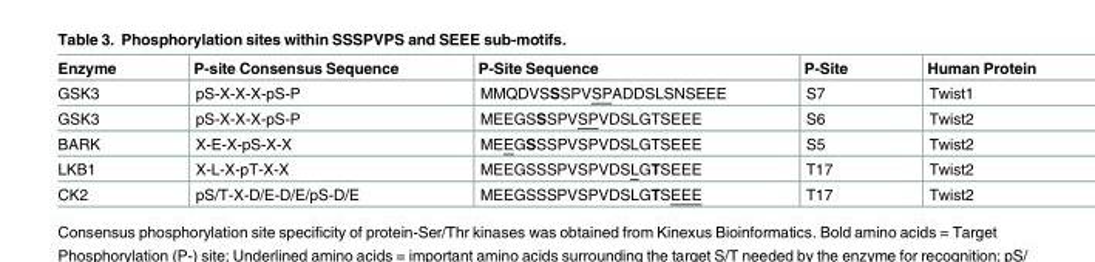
<table><thead><tr><td>Enzyme</td><td>P-site Consensus Sequence</td><td>P-Site Sequence</td><td>P-Site</td><td>Human Protein</td></tr></thead><tbody><tr><td>GSK3</td><td>pS-X-X-X-pS-P</td><td>MMQDVSSSPVSPADDSLSNSEEE</td><td>S7</td><td>Twist1</td></tr><tr><td>GSK3</td><td>pS-X-X-X-pS-P</td><td>MEEGSSSPVSPVDSLGTSEEE</td><td>S6</td><td>Twist2</td></tr><tr><td>BARK</td><td>X-E-X-pS-X-X</td><td>MEEGSSSPVSPVDSLGTSEEE</td><td>S5</td><td>Twist2</td></tr><tr><td>LKB1</td><td>X-L-X-pT-X-X</td><td>MEEGSSSPVSPVDSLGTSEEE</td><td>T17</td><td>Twist2</td></tr><tr><td>CK2</td><td>pS/T-X-D/E-D/E/pS-D/E</td><td>MEEGSSSPVSPVDSLGTSEEE</td><td>T17</td><td>Twist2</td></tr></tbody></table>